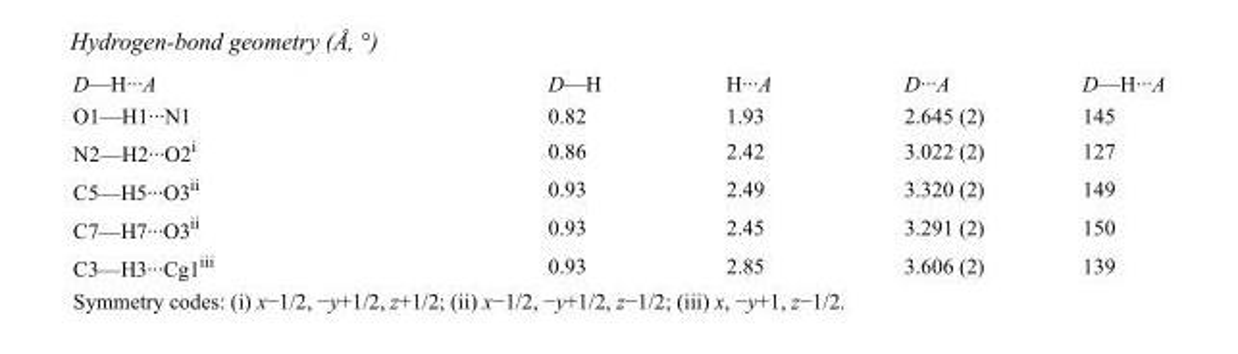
<table><tbody><tr><td>D—H···A</td><td>D—H</td><td>H···A</td><td>D···A</td><td>D—H···A</td></tr><tr><td>O1—H1···N1</td><td>0.82</td><td>1.93</td><td>2.645 (2)</td><td>145</td></tr><tr><td>N2—H2···O2<sup>i</sup></td><td>0.86</td><td>2.42</td><td>3.022 (2)</td><td>127</td></tr><tr><td>C5—H5···O3<sup>ii</sup></td><td>0.93</td><td>2.49</td><td>3.320 (2)</td><td>149</td></tr><tr><td>C7—H7···O3<sup>ii</sup></td><td>0.93</td><td>2.45</td><td>3.291 (2)</td><td>150</td></tr><tr><td>C3—H3···Cg1<sup>iii</sup></td><td>0.93</td><td>2.85</td><td>3.606 (2)</td><td>139</td></tr></tbody></table>